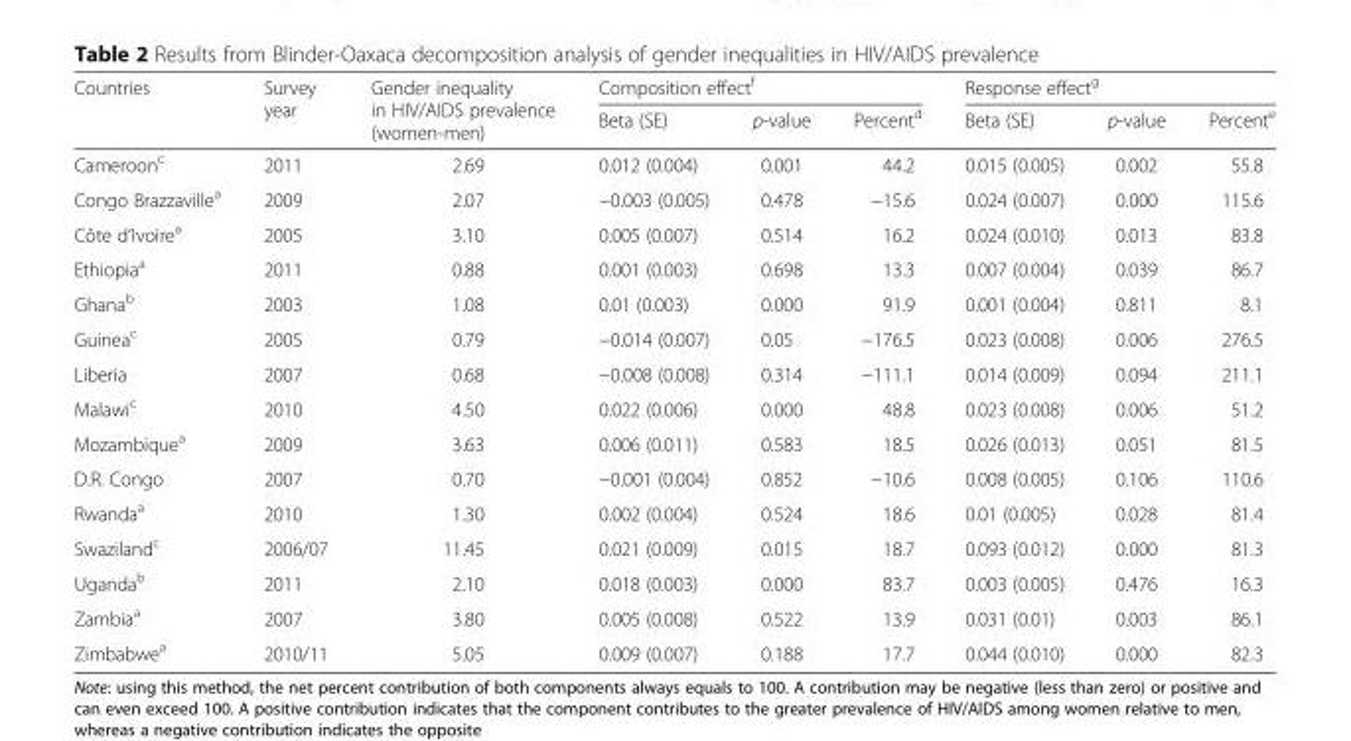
<table><thead><tr><td rowspan="2">Countries</td><td rowspan="2">Survey year</td><td rowspan="2">Gender inequality in HIV/AIDS prevalence (women-men)</td><td colspan="3">Composition effect<sup>f</sup></td><td colspan="3">Response effect<sup>g</sup></td></tr><tr><td>Beta (SE)</td><td>p-value</td><td>Percent<sup>d</sup></td><td>Beta (SE)</td><td>p-value</td><td>Percent<sup>e</sup></td></tr></thead><tbody><tr><td>Cameroon<sup>c</sup></td><td>2011</td><td>2.69</td><td>0.012 (0.004)</td><td>0.001</td><td>44.2</td><td>0.015 (0.005)</td><td>0.002</td><td>55.8</td></tr><tr><td>Congo Brazzaville<sup>a</sup></td><td>2009</td><td>2.07</td><td>−0.003 (0.005)</td><td>0.478</td><td>−15.6</td><td>0.024 (0.007)</td><td>0.000</td><td>115.6</td></tr><tr><td>Côte d’Ivoire<sup>a</sup></td><td>2005</td><td>3.10</td><td>0.005 (0.007)</td><td>0.514</td><td>16.2</td><td>0.024 (0.010)</td><td>0.013</td><td>83.8</td></tr><tr><td>Ethiopia<sup>a</sup></td><td>2011</td><td>0.88</td><td>0.001 (0.003)</td><td>0.698</td><td>13.3</td><td>0.007 (0.004)</td><td>0.039</td><td>86.7</td></tr><tr><td>Ghana<sup>b</sup></td><td>2003</td><td>1.08</td><td>0.01 (0.003)</td><td>0.000</td><td>91.9</td><td>0.001 (0.004)</td><td>0.811</td><td>8.1</td></tr><tr><td>Guinea<sup>c</sup></td><td>2005</td><td>0.79</td><td>−0.014 (0.007)</td><td>0.05</td><td>−176.5</td><td>0.023 (0.008)</td><td>0.006</td><td>276.5</td></tr><tr><td>Liberia</td><td>2007</td><td>0.68</td><td>−0.008 (0.008)</td><td>0.314</td><td>−111.1</td><td>0.014 (0.009)</td><td>0.094</td><td>211.1</td></tr><tr><td>Malawi<sup>c</sup></td><td>2010</td><td>4.50</td><td>0.022 (0.006)</td><td>0.000</td><td>48.8</td><td>0.023 (0.008)</td><td>0.006</td><td>51.2</td></tr><tr><td>Mozambique<sup>a</sup></td><td>2009</td><td>3.63</td><td>0.006 (0.011)</td><td>0.583</td><td>18.5</td><td>0.026 (0.013)</td><td>0.051</td><td>81.5</td></tr><tr><td>D.R. Congo</td><td>2007</td><td>0.70</td><td>−0.001 (0.004)</td><td>0.852</td><td>−10.6</td><td>0.008 (0.005)</td><td>0.106</td><td>110.6</td></tr><tr><td>Rwanda<sup>a</sup></td><td>2010</td><td>1.30</td><td>0.002 (0.004)</td><td>0.524</td><td>18.6</td><td>0.01 (0.005)</td><td>0.028</td><td>81.4</td></tr><tr><td>Swaziland<sup>c</sup></td><td>2006/07</td><td>11.45</td><td>0.021 (0.009)</td><td>0.015</td><td>18.7</td><td>0.093 (0.012)</td><td>0.000</td><td>81.3</td></tr><tr><td>Uganda<sup>b</sup></td><td>2011</td><td>2.10</td><td>0.018 (0.003)</td><td>0.000</td><td>83.7</td><td>0.003 (0.005)</td><td>0.476</td><td>16.3</td></tr><tr><td>Zambia<sup>a</sup></td><td>2007</td><td>3.80</td><td>0.005 (0.008)</td><td>0.522</td><td>13.9</td><td>0.031 (0.01)</td><td>0.003</td><td>86.1</td></tr><tr><td>Zimbabwe<sup>a</sup></td><td>2010/11</td><td>5.05</td><td>0.009 (0.007)</td><td>0.188</td><td>17.7</td><td>0.044 (0.010)</td><td>0.000</td><td>82.3</td></tr></tbody></table>